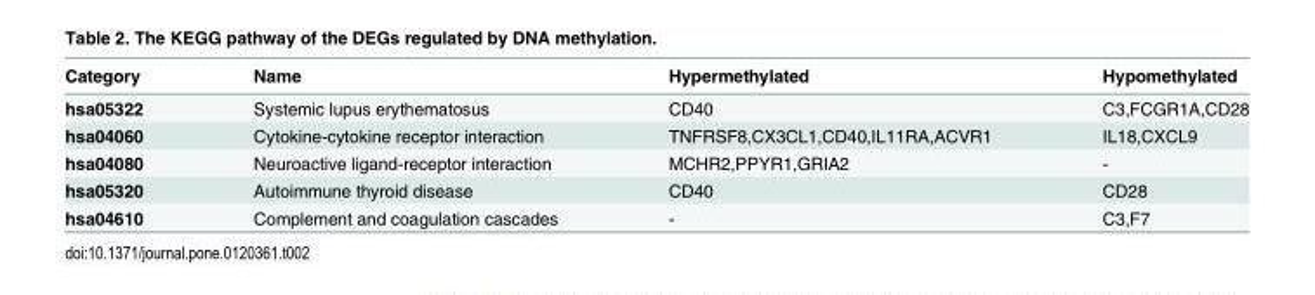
<table><thead><tr><td>Category</td><td>Name</td><td>Hypermethylated</td><td>Hypomethylated</td></tr></thead><tbody><tr><td>hsa05322</td><td>Systemic lupus erythematosus</td><td>CD40</td><td>C3,FCGR1A,CD28</td></tr><tr><td>hsa04060</td><td>Cytokine-cytokine receptor interaction</td><td>TNFRSF8,CX3CL1,CD40,IL11RA,ACVR1</td><td>IL18,CXCL9</td></tr><tr><td>hsa04080</td><td>Neuroactive ligand-receptor interaction</td><td>MCHR2,PPYR1,GRIA2</td><td>-</td></tr><tr><td>hsa05320</td><td>Autoimmune thyroid disease</td><td>CD40</td><td>CD28</td></tr><tr><td>hsa04610</td><td>Complement and coagulation cascades</td><td>-</td><td>C3,F7</td></tr></tbody></table>